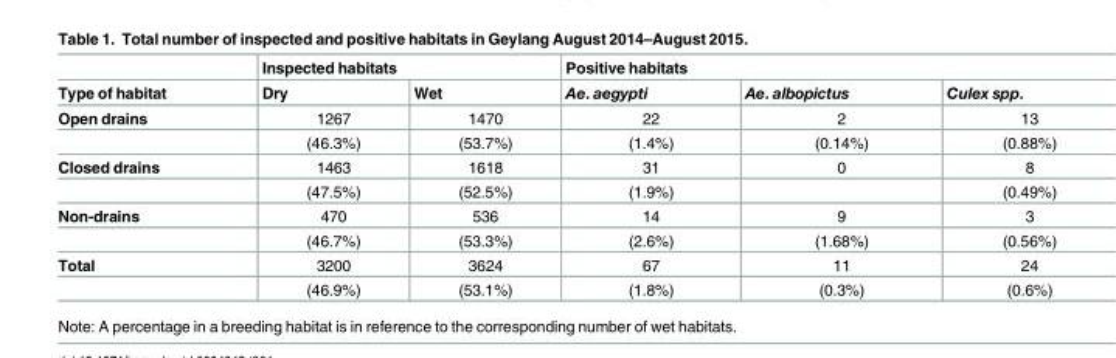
<table><thead><tr><td rowspan="2">Type of habitat</td><td colspan="2">Inspected habitats</td><td colspan="3">Positive habitats</td></tr><tr><td>Dry</td><td>Wet</td><td>Ae. aegypti</td><td>Ae. albopictus</td><td>Culex spp.</td></tr></thead><tbody><tr><td rowspan="2">Open drains</td><td>1267</td><td>1470</td><td>22</td><td>2</td><td>13</td></tr><tr><td>(46.3%)</td><td>(53.7%)</td><td>(1.4%)</td><td>(0.14%)</td><td>(0.88%)</td></tr><tr><td rowspan="2">Closed drains</td><td>1463</td><td>1618</td><td>31</td><td>0</td><td>8</td></tr><tr><td>(47.5%)</td><td>(52.5%)</td><td>(1.9%)</td><td></td><td>(0.49%)</td></tr><tr><td rowspan="2">Non-drains</td><td>470</td><td>536</td><td>14</td><td>9</td><td>3</td></tr><tr><td>(46.7%)</td><td>(53.3%)</td><td>(2.6%)</td><td>(1.68%)</td><td>(0.56%)</td></tr><tr><td rowspan="2">Total</td><td>3200</td><td>3624</td><td>67</td><td>11</td><td>24</td></tr><tr><td>(46.9%)</td><td>(53.1%)</td><td>(1.8%)</td><td>(0.3%)</td><td>(0.6%)</td></tr></tbody></table>